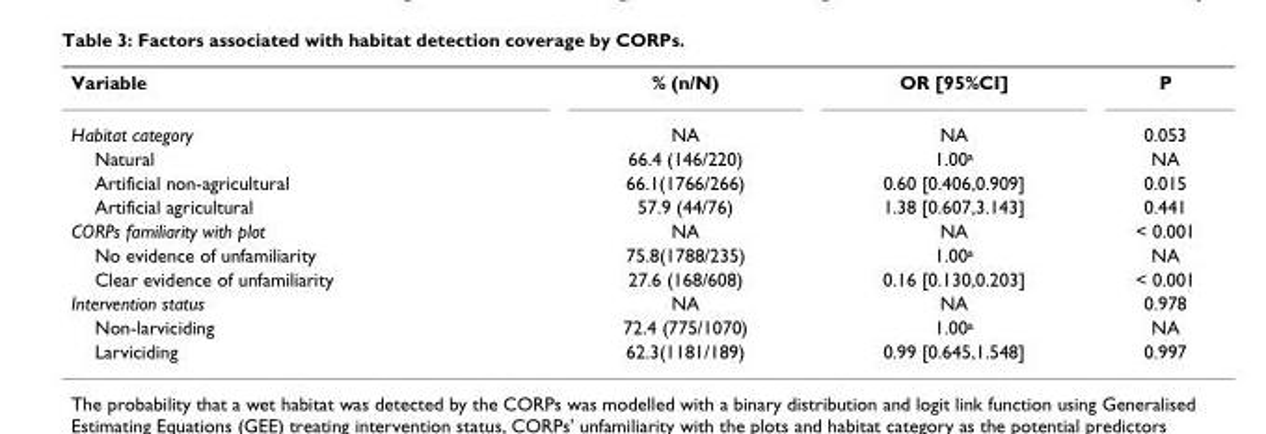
<table><tbody><tr><td>Variable</td><td>% (n/N)</td><td>OR [95%CI]</td><td>P</td></tr><tr><td>Habitat category</td><td>NA</td><td>NA</td><td>0.053</td></tr><tr><td>Natural</td><td>66.4 (146/220)</td><td>1.00<sup>a</sup></td><td>NA</td></tr><tr><td>Artificial non-agricultural</td><td>66.1(1766/266)</td><td>0.60 [0.406,0.909]</td><td>0.015</td></tr><tr><td>Artificial agricultural</td><td>57.9 (44/76)</td><td>1.38 [0.607,3.143]</td><td>0.441</td></tr><tr><td>CORPs familiarity with plot</td><td>NA</td><td>NA</td><td>&lt; 0.001</td></tr><tr><td>No evidence of unfamiliarity</td><td>75.8(1788/235)</td><td>1.00<sup>a</sup></td><td>NA</td></tr><tr><td>Clear evidence of unfamiliarity</td><td>27.6 (168/608)</td><td>0.16 [0.130,0.203]</td><td>&lt; 0.001</td></tr><tr><td>Intervention status</td><td>NA</td><td>NA</td><td>0.978</td></tr><tr><td>Non-larviciding</td><td>72.4 (775/1070)</td><td>1.00<sup>a</sup></td><td>NA</td></tr><tr><td>Larviciding</td><td>62.3(1181/189)</td><td>0.99 [0.645,1.548]</td><td>0.997</td></tr></tbody></table>